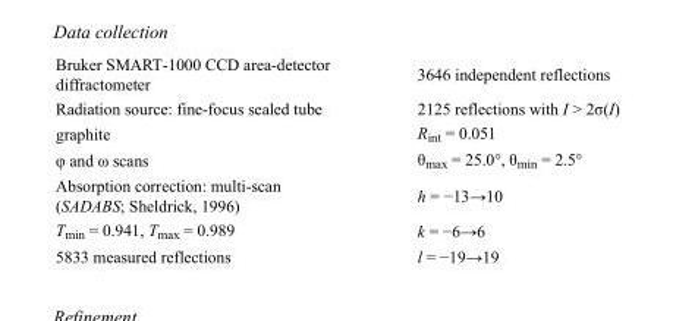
<table><tbody><tr><td>Bruker SMART-1000 CCD area-detector diffractometer</td><td>3646 independent reflections</td></tr><tr><td>Radiation source: fine-focus sealed tube</td><td>2125 reflections with I &gt; 2σ(I)</td></tr><tr><td>graphite</td><td>R<sub>int</sub> = 0.051</td></tr><tr><td>φ and ω scans</td><td>θ<sub>max</sub> = 25.0°, θ<sub>min</sub> = 2.5°</td></tr><tr><td>Absorption correction: multi-scan (SADABS; Sheldrick, 1996)</td><td>h = −13→10</td></tr><tr><td>T<sub>min</sub> = 0.941, T<sub>max</sub> = 0.989</td><td>k = −6→6</td></tr><tr><td>5833 measured reflections</td><td>l = −19→19</td></tr></tbody></table>